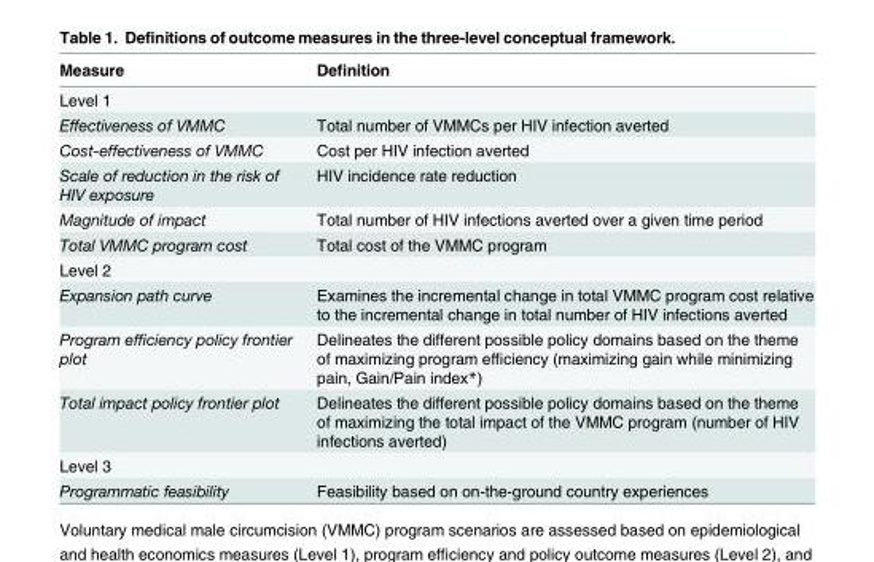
<table><thead><tr><td>Measure</td><td>Definition</td></tr></thead><tbody><tr><td colspan="2">Level 1</td></tr><tr><td>Effectiveness of VMMC</td><td>Total number of VMMCs per HIV infection averted</td></tr><tr><td>Cost-effectiveness of VMMC</td><td>Cost per HIV infection averted</td></tr><tr><td>Scale of reduction in the risk of HIV exposure</td><td>HIV incidence rate reduction</td></tr><tr><td>Magnitude of impact</td><td>Total number of HIV infections averted over a given time period</td></tr><tr><td>Total VMMC program cost</td><td>Total cost of the VMMC program</td></tr><tr><td colspan="2">Level 2</td></tr><tr><td>Expansion path curve</td><td>Examines the incremental change in total VMMC program cost relative to the incremental change in total number of HIV infections averted</td></tr><tr><td>Program efficiency policy frontier plot</td><td>Delineates the different possible policy domains based on the theme of maximizing program efficiency (maximizing gain while minimizing pain, Gain/Pain index*)</td></tr><tr><td>Total impact policy frontier plot</td><td>Delineates the different possible policy domains based on the theme of maximizing the total impact of the VMMC program (number of HIV infections averted)</td></tr><tr><td colspan="2">Level 3</td></tr><tr><td>Programmatic feasibility</td><td>Feasibility based on on-the-ground country experiences</td></tr></tbody></table>